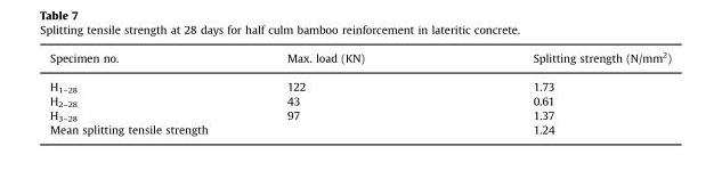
<table><thead><tr><td>Specimen no.</td><td>Max. load (KN)</td><td>Splitting strength (N/mm<sup>2</sup>)</td></tr></thead><tbody><tr><td>H<sub>1–28</sub></td><td>122</td><td>1.73</td></tr><tr><td>H<sub>2–28</sub></td><td>43</td><td>0.61</td></tr><tr><td>H<sub>3–28</sub></td><td>97</td><td>1.37</td></tr><tr><td colspan="2">Mean splitting tensile strength</td><td>1.24</td></tr></tbody></table>